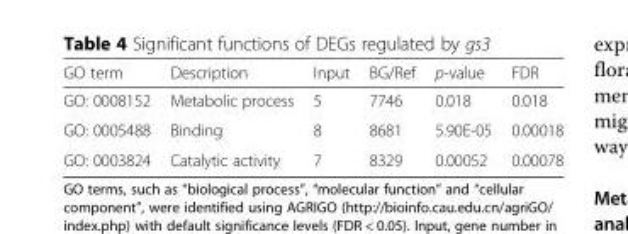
<table><thead><tr><td>GO term</td><td>Description</td><td>Input</td><td>BG/Ref</td><td>p-value</td><td>FDR</td></tr></thead><tbody><tr><td>GO: 0008152</td><td>Metabolic process</td><td>5</td><td>7746</td><td>0.018</td><td>0.018</td></tr><tr><td>GO: 0005488</td><td>Binding</td><td>8</td><td>8681</td><td>5.90E-05</td><td>0.00018</td></tr><tr><td>GO: 0003824</td><td>Catalytic activity</td><td>7</td><td>8329</td><td>0.00052</td><td>0.00078</td></tr></tbody></table>